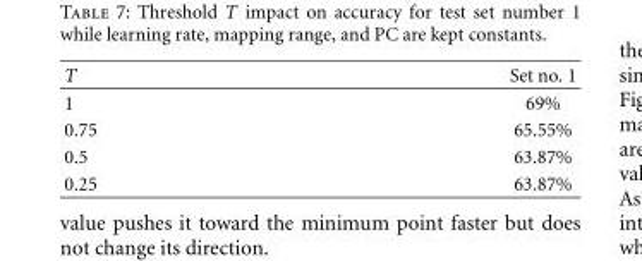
<table><thead><tr><td>T</td><td>Set no. 1</td></tr></thead><tbody><tr><td>1</td><td>69%</td></tr><tr><td>0.75</td><td>65.55%</td></tr><tr><td>0.5</td><td>63.87%</td></tr><tr><td>0.25</td><td>63.87%</td></tr></tbody></table>